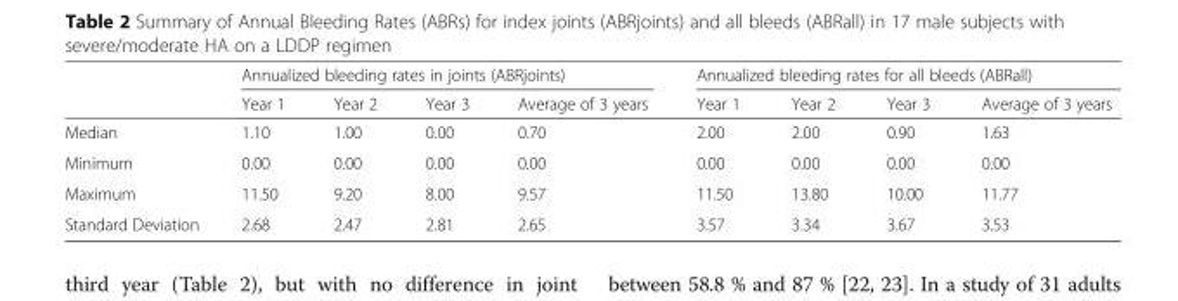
<table><thead><tr><td rowspan="2"></td><td colspan="4">Annualized bleeding rates in joints (ABRjoints)</td><td colspan="4">Annualized bleeding rates for all bleeds (ABRall)</td></tr><tr><td>Year 1</td><td>Year 2</td><td>Year 3</td><td>Average of 3 years</td><td>Year 1</td><td>Year 2</td><td>Year 3</td><td>Average of 3 years</td></tr></thead><tbody><tr><td>Median</td><td>1.10</td><td>1.00</td><td>0.00</td><td>0.70</td><td>2.00</td><td>2.00</td><td>0.90</td><td>1.63</td></tr><tr><td>Minimum</td><td>0.00</td><td>0.00</td><td>0.00</td><td>0.00</td><td>0.00</td><td>0.00</td><td>0.00</td><td>0.00</td></tr><tr><td>Maximum</td><td>11.50</td><td>9.20</td><td>8.00</td><td>9.57</td><td>11.50</td><td>13.80</td><td>10.00</td><td>11.77</td></tr><tr><td>Standard Deviation</td><td>2.68</td><td>2.47</td><td>2.81</td><td>2.65</td><td>3.57</td><td>3.34</td><td>3.67</td><td>3.53</td></tr></tbody></table>